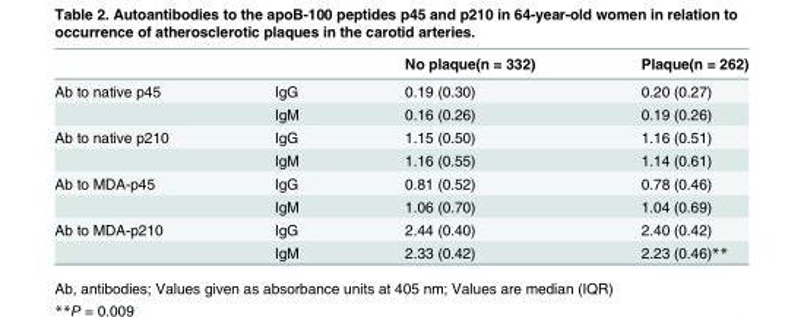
<table><thead><tr><td></td><td></td><td>No plaque(n = 332)</td><td>Plaque(n = 262)</td></tr></thead><tbody><tr><td rowspan="2">Ab to native p45</td><td>IgG</td><td>0.19 (0.30)</td><td>0.20 (0.27)</td></tr><tr><td>IgM</td><td>0.16 (0.26)</td><td>0.19 (0.26)</td></tr><tr><td rowspan="2">Ab to native p210</td><td>IgG</td><td>1.15 (0.50)</td><td>1.16 (0.51)</td></tr><tr><td>IgM</td><td>1.16 (0.55)</td><td>1.14 (0.61)</td></tr><tr><td rowspan="2">Ab to MDA-p45</td><td>IgG</td><td>0.81 (0.52)</td><td>0.78 (0.46)</td></tr><tr><td>IgM</td><td>1.06 (0.70)</td><td>1.04 (0.69)</td></tr><tr><td rowspan="2">Ab to MDA-p210</td><td>IgG</td><td>2.44 (0.40)</td><td>2.40 (0.42)</td></tr><tr><td>IgM</td><td>2.33 (0.42)</td><td>2.23 (0.46)**</td></tr></tbody></table>